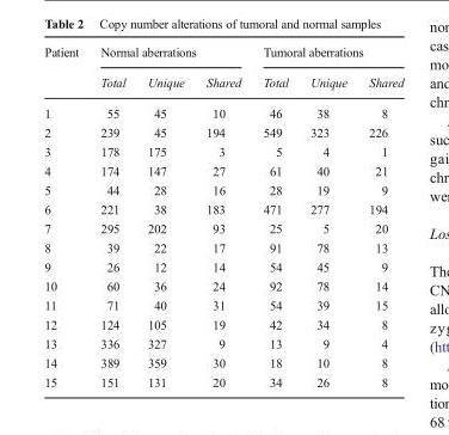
<table><thead><tr><td rowspan="2">Patient</td><td colspan="3">Normal aberrations</td><td colspan="3">Tumoral aberrations</td></tr><tr><td>Total</td><td>Unique</td><td>Shared</td><td>Total</td><td>Unique</td><td>Shared</td></tr></thead><tbody><tr><td>1</td><td>55</td><td>45</td><td>10</td><td>46</td><td>38</td><td>8</td></tr><tr><td>2</td><td>239</td><td>45</td><td>194</td><td>549</td><td>323</td><td>226</td></tr><tr><td>3</td><td>178</td><td>175</td><td>3</td><td>5</td><td>4</td><td>1</td></tr><tr><td>4</td><td>174</td><td>147</td><td>27</td><td>61</td><td>40</td><td>21</td></tr><tr><td>5</td><td>44</td><td>28</td><td>16</td><td>28</td><td>19</td><td>9</td></tr><tr><td>6</td><td>221</td><td>38</td><td>183</td><td>471</td><td>277</td><td>194</td></tr><tr><td>7</td><td>295</td><td>202</td><td>93</td><td>25</td><td>5</td><td>20</td></tr><tr><td>8</td><td>39</td><td>22</td><td>17</td><td>91</td><td>78</td><td>13</td></tr><tr><td>9</td><td>26</td><td>12</td><td>14</td><td>54</td><td>45</td><td>9</td></tr><tr><td>10</td><td>60</td><td>36</td><td>24</td><td>92</td><td>78</td><td>14</td></tr><tr><td>11</td><td>71</td><td>40</td><td>31</td><td>54</td><td>39</td><td>15</td></tr><tr><td>12</td><td>124</td><td>105</td><td>19</td><td>42</td><td>34</td><td>8</td></tr><tr><td>13</td><td>336</td><td>327</td><td>9</td><td>13</td><td>9</td><td>4</td></tr><tr><td>14</td><td>389</td><td>359</td><td>30</td><td>18</td><td>10</td><td>8</td></tr><tr><td>15</td><td>151</td><td>131</td><td>20</td><td>34</td><td>26</td><td>8</td></tr></tbody></table>